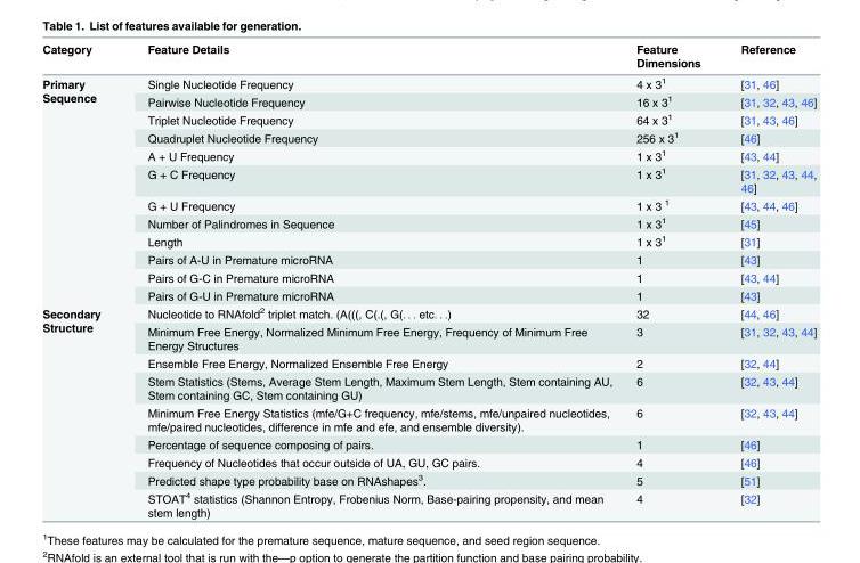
<table><thead><tr><td>Category</td><td>Feature Details</td><td>Feature Dimensions</td><td>Reference</td></tr></thead><tbody><tr><td rowspan="12">Primary Sequence</td><td>Single Nucleotide Frequency</td><td>4 x 3<sup>1</sup></td><td>[31, 46]</td></tr><tr><td>Pairwise Nucleotide Frequency</td><td>16 x 3<sup>1</sup></td><td>[31, 32, 43, 46]</td></tr><tr><td>Triplet Nucleotide Frequency</td><td>64 x 3<sup>1</sup></td><td>[31, 43, 46]</td></tr><tr><td>Quadruplet Nucleotide Frequency</td><td>256 x 3<sup>1</sup></td><td>[46]</td></tr><tr><td>A + U Frequency</td><td>1 x 3<sup>1</sup></td><td>[43, 44]</td></tr><tr><td>G + C Frequency</td><td>1 x 3<sup>1</sup></td><td>[31, 32, 43, 44, 46]</td></tr><tr><td>G + U Frequency</td><td>1 x 3 <sup>1</sup></td><td>[43, 44, 46]</td></tr><tr><td>Number of Palindromes in Sequence</td><td>1 x 3<sup>1</sup></td><td>[45]</td></tr><tr><td>Length</td><td>1 x 3<sup>1</sup></td><td>[31]</td></tr><tr><td>Pairs of A-U in Premature microRNA</td><td>1</td><td>[43]</td></tr><tr><td>Pairs of G-C in Premature microRNA</td><td>1</td><td>[43, 44]</td></tr><tr><td>Pairs of G-U in Premature microRNA</td><td>1</td><td>[43]</td></tr><tr><td rowspan="9">Secondary Structure</td><td>Nucleotide to RNAfold<sup>2</sup> triplet match. (A(((, C(.(, G(. . . etc. . .)</td><td>32</td><td>[44, 46]</td></tr><tr><td>Minimum Free Energy, Normalized Minimum Free Energy, Frequency of Minimum Free Energy Structures</td><td>3</td><td>[31, 32, 43, 44]</td></tr><tr><td>Ensemble Free Energy, Normalized Ensemble Free Energy</td><td>2</td><td>[32, 44]</td></tr><tr><td>Stem Statistics (Stems, Average Stem Length, Maximum Stem Length, Stem containing AU, Stem containing GC, Stem containing GU)</td><td>6</td><td>[32, 43, 44]</td></tr><tr><td>Minimum Free Energy Statistics (mfe/G+C frequency, mfe/stems, mfe/unpaired nucleotides, mfe/paired nucleotides, difference in mfe and efe, and ensemble diversity).</td><td>6</td><td>[32, 43, 44]</td></tr><tr><td>Percentage of sequence composing of pairs.</td><td>1</td><td>[46]</td></tr><tr><td>Frequency of Nucleotides that occur outside of UA, GU, GC pairs.</td><td>4</td><td>[46]</td></tr><tr><td>Predicted shape type probability base on RNAshapes<sup>3</sup>.</td><td>5</td><td>[51]</td></tr><tr><td>STOAT<sup>4</sup> statistics (Shannon Entropy, Frobenius Norm, Base-pairing propensity, and mean stem length)</td><td>4</td><td>[32]</td></tr></tbody></table>